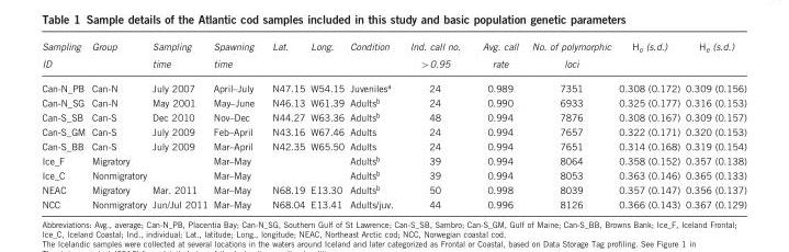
<table><thead><tr><td>Sampling ID</td><td>Group</td><td>Sampling time</td><td>Spawning time</td><td>Lat.</td><td>Long.</td><td>Condition</td><td>Ind. call no. &gt;0.95</td><td>Avg. call rate</td><td>No. of polymorphic loci</td><td>H<sub>o</sub> (s.d.)</td><td>H<sub>e</sub> (s.d.)</td></tr></thead><tbody><tr><td>Can-N_PB</td><td>Can-N</td><td>July 2007</td><td>April–July</td><td>N47.15</td><td>W54.15</td><td>Juveniles<sup>a</sup></td><td>24</td><td>0.989</td><td>7351</td><td>0.308 (0.172)</td><td>0.309 (0.156)</td></tr><tr><td>Can-N_SG</td><td>Can-N</td><td>May 2001</td><td>May–June</td><td>N46.13</td><td>W61.39</td><td>Adults<sup>b</sup></td><td>24</td><td>0.990</td><td>6933</td><td>0.325 (0.177)</td><td>0.316 (0.153)</td></tr><tr><td>Can-S_SB</td><td>Can-S</td><td>Dec 2010</td><td>Nov–Dec</td><td>N44.27</td><td>W63.36</td><td>Adults<sup>b</sup></td><td>48</td><td>0.994</td><td>7876</td><td>0.308 (0.167)</td><td>0.309 (0.157)</td></tr><tr><td>Can-S_GM</td><td>Can-S</td><td>July 2009</td><td>Feb–April</td><td>N43.16</td><td>W67.46</td><td>Adults</td><td>24</td><td>0.994</td><td>7657</td><td>0.322 (0.171)</td><td>0.320 (0.153)</td></tr><tr><td>Can-S_BB</td><td>Can-S</td><td>July 2009</td><td>Mar–April</td><td>N42.35</td><td>W65.50</td><td>Adults</td><td>24</td><td>0.994</td><td>7651</td><td>0.314 (0.168)</td><td>0.319 (0.154)</td></tr><tr><td>Ice_F</td><td>Migratory</td><td></td><td>Mar–May</td><td></td><td></td><td>Adults<sup>b</sup></td><td>39</td><td>0.994</td><td>8064</td><td>0.358 (0.152)</td><td>0.357 (0.138)</td></tr><tr><td>Ice_C</td><td>Nonmigratory</td><td></td><td>Mar–May</td><td></td><td></td><td>Adults<sup>b</sup></td><td>39</td><td>0.994</td><td>8053</td><td>0.363 (0.146)</td><td>0.365 (0.133)</td></tr><tr><td>NEAC</td><td>Migratory</td><td>Mar. 2011</td><td>Mar–May</td><td>N68.19</td><td>E13.30</td><td>Adults<sup>b</sup></td><td>50</td><td>0.998</td><td>8039</td><td>0.357 (0.147)</td><td>0.356 (0.137)</td></tr><tr><td>NCC</td><td>Nonmigratory</td><td>Jun/Jul 2011</td><td>Mar–May</td><td>N68.04</td><td>E13.41</td><td>Adults/juv.</td><td>44</td><td>0.996</td><td>8126</td><td>0.366 (0.143)</td><td>0.367 (0.129)</td></tr></tbody></table>